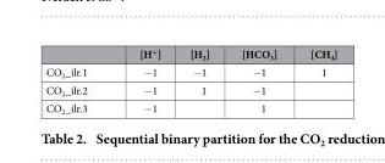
<table><thead><tr><td></td><td>[H<sup>+</sup>]</td><td>[H<sub>2</sub>]</td><td>[HCO<sub>3</sub>]</td><td>[CH<sub>4</sub>]</td></tr></thead><tbody><tr><td>CO2_ilr.1</td><td>− 1</td><td>− 1</td><td>− 1</td><td>1</td></tr><tr><td>CO2_ilr.2</td><td>− 1</td><td>1</td><td>− 1</td><td></td></tr><tr><td>CO2_ilr.3</td><td>− 1</td><td></td><td>1</td><td></td></tr></tbody></table>